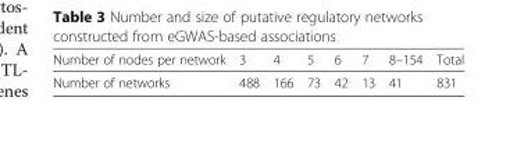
<table><thead><tr><td>Number of nodes per network</td><td>3</td><td>4</td><td>5</td><td>6</td><td>7</td><td>8–154</td><td>Total</td></tr></thead><tbody><tr><td>Number of networks</td><td>488</td><td>166</td><td>73</td><td>42</td><td>13</td><td>41</td><td>831</td></tr></tbody></table>